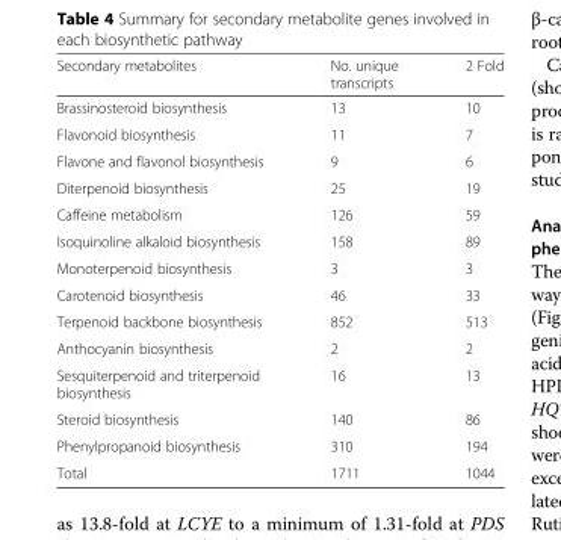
<table><thead><tr><td>Secondary metabolites</td><td>No. unique transcripts</td><td>2 Fold</td></tr></thead><tbody><tr><td>Brassinosteroid biosynthesis</td><td>13</td><td>10</td></tr><tr><td>Flavonoid biosynthesis</td><td>11</td><td>7</td></tr><tr><td>Flavone and flavonol biosynthesis</td><td>9</td><td>6</td></tr><tr><td>Diterpenoid biosynthesis</td><td>25</td><td>19</td></tr><tr><td>Caffeine metabolism</td><td>126</td><td>59</td></tr><tr><td>Isoquinoline alkaloid biosynthesis</td><td>158</td><td>89</td></tr><tr><td>Monoterpenoid biosynthesis</td><td>3</td><td>3</td></tr><tr><td>Carotenoid biosynthesis</td><td>46</td><td>33</td></tr><tr><td>Terpenoid backbone biosynthesis</td><td>852</td><td>513</td></tr><tr><td>Anthocyanin biosynthesis</td><td>2</td><td>2</td></tr><tr><td>Sesquiterpenoid and triterpenoid biosynthesis</td><td>16</td><td>13</td></tr><tr><td>Steroid biosynthesis</td><td>140</td><td>86</td></tr><tr><td>Phenylpropanoid biosynthesis</td><td>310</td><td>194</td></tr><tr><td>Total</td><td>1711</td><td>1044</td></tr></tbody></table>